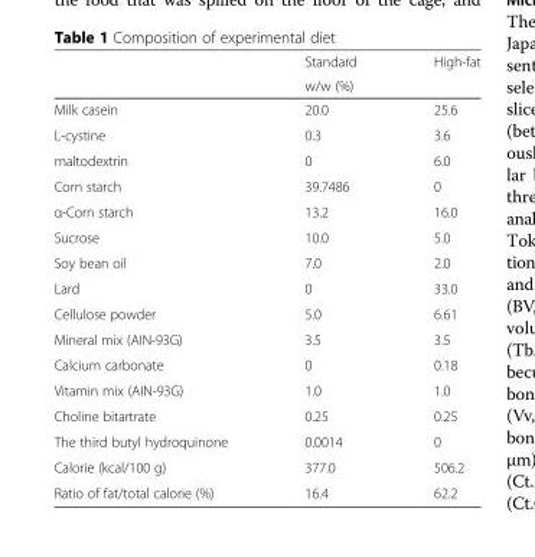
<table><thead><tr><td rowspan="2"></td><td>Standard</td><td>High-fat</td></tr><tr><td colspan="2">w/w (%)</td></tr></thead><tbody><tr><td>Milk casein</td><td>20.0</td><td>25.6</td></tr><tr><td>L-cystine</td><td>0.3</td><td>3.6</td></tr><tr><td>maltodextrin</td><td>0</td><td>6.0</td></tr><tr><td>Corn starch</td><td>39.7486</td><td>0</td></tr><tr><td>α-Corn starch</td><td>13.2</td><td>16.0</td></tr><tr><td>Sucrose</td><td>10.0</td><td>5.0</td></tr><tr><td>Soy bean oil</td><td>7.0</td><td>2.0</td></tr><tr><td>Lard</td><td>0</td><td>33.0</td></tr><tr><td>Cellulose powder</td><td>5.0</td><td>6.61</td></tr><tr><td>Mineral mix (AIN-93G)</td><td>3.5</td><td>3.5</td></tr><tr><td>Calcium carbonate</td><td>0</td><td>0.18</td></tr><tr><td>Vitamin mix (AIN-93G)</td><td>1.0</td><td>1.0</td></tr><tr><td>Choline bitartrate</td><td>0.25</td><td>0.25</td></tr><tr><td>The third butyl hydroquinone</td><td>0.0014</td><td>0</td></tr><tr><td>Calorie (kcal/100 g)</td><td>377.0</td><td>506.2</td></tr><tr><td>Ratio of fat/total calorie (%)</td><td>16.4</td><td>62.2</td></tr></tbody></table>